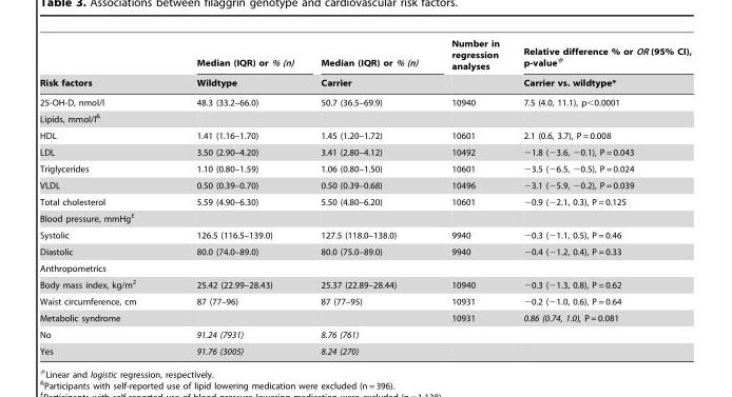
<table><thead><tr><td rowspan="2">Risk factors</td><td rowspan="2">Median (IQR) or % (n) Wildtype</td><td rowspan="2">Median (IQR) or % (n) Carrier</td><td rowspan="2">Number in regression analyses</td><td rowspan="2">Relative difference % or OR (95% CI), p-value# Carrier vs. wildtype*</td></tr><tr></tr></thead><tbody><tr><td>25-OH-D, nmol/l</td><td>48.3 (33.2–66.0)</td><td>50.7 (36.5–69.9)</td><td>10940</td><td>7.5 (4.0, 11.1), p&lt;0.0001</td></tr><tr><td colspan="5">Lipids, mmol/l&amp;</td></tr><tr><td>HDL</td><td>1.41 (1.16–1.70)</td><td>1.45 (1.20–1.72)</td><td>10601</td><td>2.1 (0.6, 3.7), P = 0.008</td></tr><tr><td>LDL</td><td>3.50 (2.90–4.20)</td><td>3.41 (2.80–4.12)</td><td>10492</td><td>−1.8 (−3.6, −0.1), P = 0.043</td></tr><tr><td>Triglycerides</td><td>1.10 (0.80–1.59)</td><td>1.06 (0.80–1.50)</td><td>10601</td><td>−3.5 (−6.5, −0.5), P = 0.024</td></tr><tr><td>VLDL</td><td>0.50 (0.39–0.70)</td><td>0.50 (0.39–0.68)</td><td>10496</td><td>−3.1 (−5.9, −0.2), P = 0.039</td></tr><tr><td>Total cholesterol</td><td>5.59 (4.90–6.30)</td><td>5.50 (4.80–6.20)</td><td>10601</td><td>−0.9 (−2.1, 0.3), P = 0.125</td></tr><tr><td colspan="5">Blood pressure, mmHg£</td></tr><tr><td>Systolic</td><td>126.5 (116.5–139.0)</td><td>127.5 (118.0–138.0)</td><td>9940</td><td>−0.3 (−1.1, 0.5), P = 0.46</td></tr><tr><td>Diastolic</td><td>80.0 (74.0–89.0)</td><td>80.0 (75.0–89.0)</td><td>9940</td><td>−0.4 (−1.2, 0.4), P = 0.33</td></tr><tr><td colspan="5">Anthropometrics</td></tr><tr><td>Body mass index, kg/m<sup>2</sup></td><td>25.42 (22.99–28.43)</td><td>25.37 (22.89–28.44)</td><td>10940</td><td>−0.3 (−1.3, 0.8), P = 0.62</td></tr><tr><td>Waist circumference, cm</td><td>87 (77–96)</td><td>87 (77–95)</td><td>10931</td><td>−0.2 (−1.0, 0.6), P = 0.64</td></tr><tr><td>Metabolic syndrome</td><td></td><td></td><td>10931</td><td>0.86 (0.74, 1.0), P = 0.081</td></tr><tr><td>No</td><td>91.24 (7931)</td><td>8.76 (761)</td><td></td><td></td></tr><tr><td>Yes</td><td>91.76 (3005)</td><td>8.24 (270)</td><td></td><td></td></tr></tbody></table>